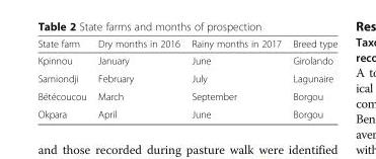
<table><thead><tr><td>State farm</td><td>Dry months in 2016</td><td>Rainy months in 2017</td><td>Breed type</td></tr></thead><tbody><tr><td>Kpinnou</td><td>January</td><td>June</td><td>Girolando</td></tr><tr><td>Samiondji</td><td>February</td><td>July</td><td>Lagunaire</td></tr><tr><td>Bétécoucou</td><td>March</td><td>September</td><td>Borgou</td></tr><tr><td>Okpara</td><td>April</td><td>June</td><td>Borgou</td></tr></tbody></table>